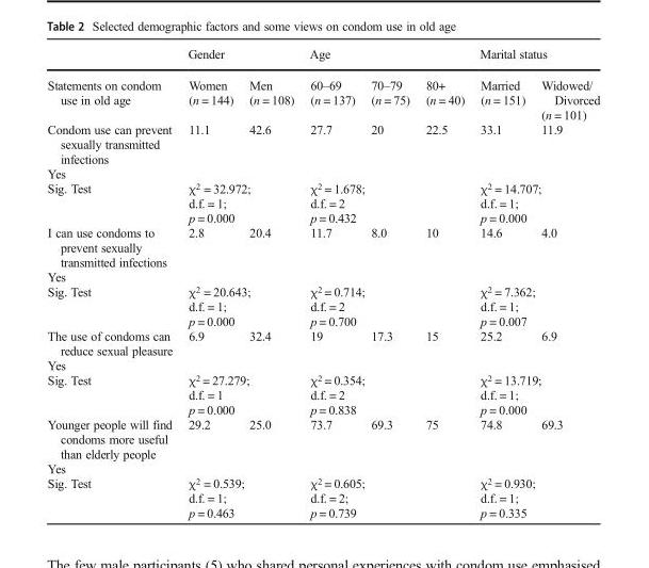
<table><thead><tr><td rowspan="2">Statements on condom use in old age</td><td colspan="2">Gender</td><td colspan="3">Age</td><td colspan="2">Marital status</td></tr><tr><td>Women (n = 144)</td><td>Men (n = 108)</td><td>60–69 (n = 137)</td><td>70–79 (n = 75)</td><td>80+ (n = 40)</td><td>Married (n = 151)</td><td>Widowed/ Divorced (n = 101)</td></tr></thead><tbody><tr><td>Condom use can prevent sexually transmitted infections Yes</td><td>11.1</td><td>42.6</td><td>27.7</td><td>20</td><td>22.5</td><td>33.1</td><td>11.9</td></tr><tr><td>Sig. Test</td><td colspan="2">χ<sup>2</sup> = 32.972; d.f. = 1; p = 0.000</td><td colspan="3">χ<sup>2</sup> = 1.678; d.f. = 2 p = 0.432</td><td colspan="2">χ<sup>2</sup> = 14.707; d.f. = 1; p = 0.000</td></tr><tr><td>I can use condoms to prevent sexually transmitted infections Yes</td><td>2.8</td><td>20.4</td><td>11.7</td><td>8.0</td><td>10</td><td>14.6</td><td>4.0</td></tr><tr><td>Sig. Test</td><td colspan="2">χ<sup>2</sup> = 20.643; d.f. = 1; p = 0.000</td><td colspan="3">χ<sup>2</sup> = 0.714; d.f. = 2 p = 0.700</td><td colspan="2">χ<sup>2</sup> = 7.362; d.f. = 1; p = 0.007</td></tr><tr><td>The use of condoms can reduce sexual pleasure Yes</td><td>6.9</td><td>32.4</td><td>19</td><td>17.3</td><td>15</td><td>25.2</td><td>6.9</td></tr><tr><td>Sig. Test</td><td colspan="2">χ<sup>2</sup> = 27.279; d.f. = 1 p = 0.000</td><td colspan="3">χ<sup>2</sup> = 0.354; d.f. = 2 p = 0.838</td><td colspan="2">χ<sup>2</sup> = 13.719; d.f. = 1; p = 0.000</td></tr><tr><td>Younger people will find condoms more useful than elderly people Yes</td><td>29.2</td><td>25.0</td><td>73.7</td><td>69.3</td><td>75</td><td>74.8</td><td>69.3</td></tr><tr><td>Sig. Test</td><td colspan="2">χ<sup>2</sup> = 0.539; d.f. = 1; p = 0.463</td><td colspan="3">χ<sup>2</sup> = 0.605; d.f. = 2; p = 0.739</td><td colspan="2">χ<sup>2</sup> = 0.930; d.f. = 1; p = 0.335</td></tr></tbody></table>